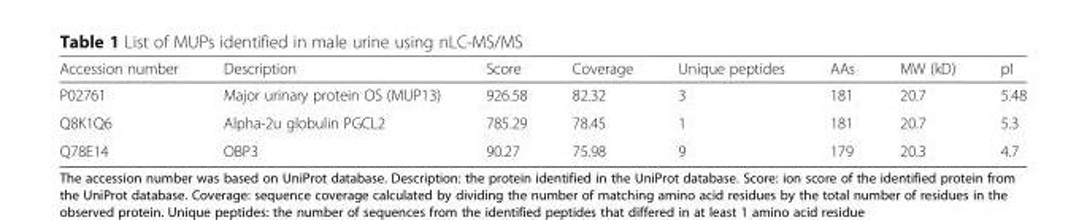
<table><thead><tr><td>Accession number</td><td>Description</td><td>Score</td><td>Coverage</td><td>Unique peptides</td><td>AAs</td><td>MW (kD)</td><td>pI</td></tr></thead><tbody><tr><td>P02761</td><td>Major urinary protein OS (MUP13)</td><td>926.58</td><td>82.32</td><td>3</td><td>181</td><td>20.7</td><td>5.48</td></tr><tr><td>Q8K1Q6</td><td>Alpha-2u globulin PGCL2</td><td>785.29</td><td>78.45</td><td>1</td><td>181</td><td>20.7</td><td>5.3</td></tr><tr><td>Q78E14</td><td>OBP3</td><td>90.27</td><td>75.98</td><td>9</td><td>179</td><td>20.3</td><td>4.7</td></tr></tbody></table>